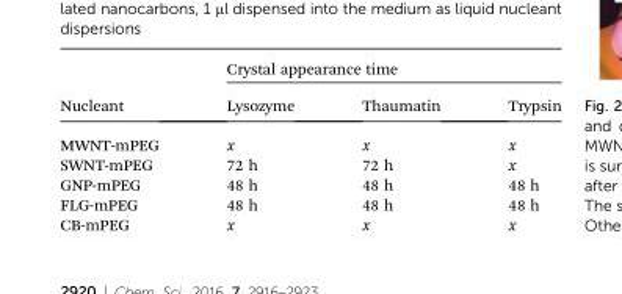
<table><thead><tr><td rowspan="2">Nucleant</td><td colspan="3">Crystal appearance time</td></tr><tr><td>Lysozyme</td><td>Thaumatin</td><td>Trypsin</td></tr></thead><tbody><tr><td>MWNT-mPEG</td><td>x</td><td>x</td><td>x</td></tr><tr><td>SWNT-mPEG</td><td>72 h</td><td>72 h</td><td>x</td></tr><tr><td>GNP-mPEG</td><td>48 h</td><td>48 h</td><td>48 h</td></tr><tr><td>FLG-mPEG</td><td>48 h</td><td>48 h</td><td>48 h</td></tr><tr><td>CB-mPEG</td><td>x</td><td>x</td><td>x</td></tr></tbody></table>